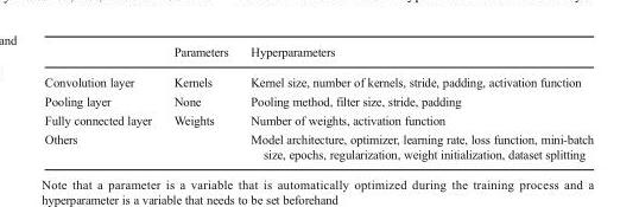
<table><thead><tr><td></td><td>Parameters</td><td>Hyperparameters</td></tr></thead><tbody><tr><td>Convolution layer</td><td>Kernels</td><td>Kernel size, number of kernels, stride, padding, activation function</td></tr><tr><td>Pooling layer</td><td>None</td><td>Pooling method, filter size, stride, padding</td></tr><tr><td>Fully connected layer</td><td>Weights</td><td>Number of weights, activation function</td></tr><tr><td>Others</td><td></td><td>Model architecture, optimizer, learning rate, loss function, mini-batch size, epochs, regularization, weight initialization, dataset splitting</td></tr></tbody></table>